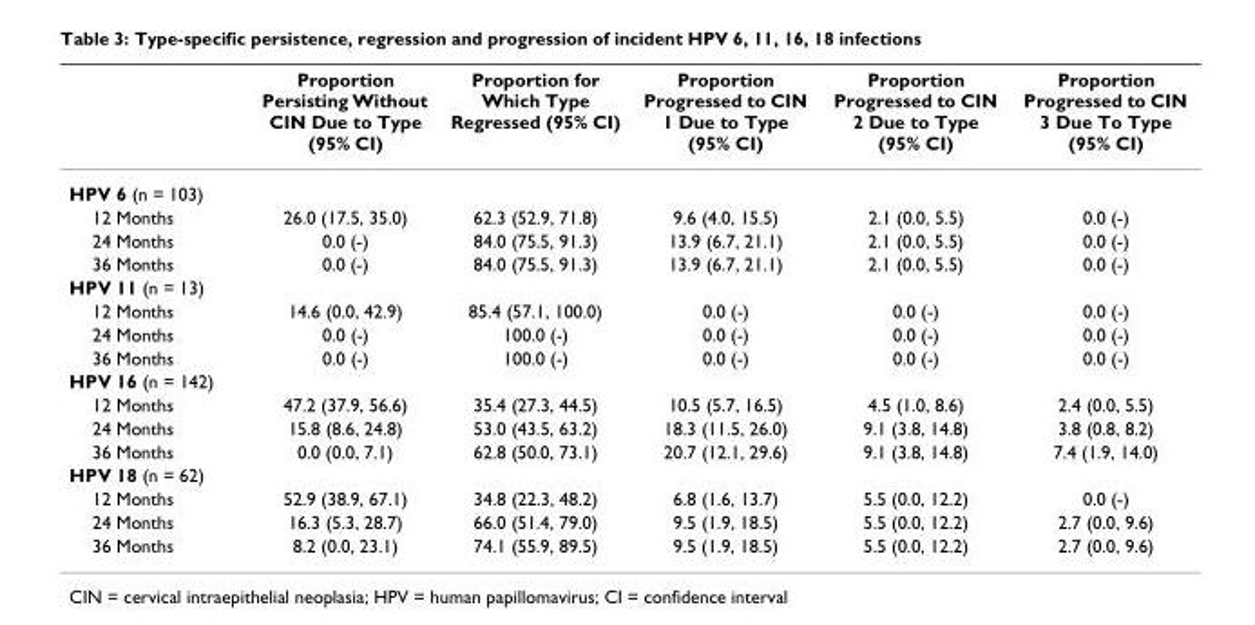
<table><thead><tr><td></td><td>Proportion Persisting Without CIN Due to Type (95% CI)</td><td>Proportion for Which Type Regressed (95% CI)</td><td>Proportion Progressed to CIN 1 Due to Type (95% CI)</td><td>Proportion Progressed to CIN 2 Due to Type (95% CI)</td><td>Proportion Progressed to CIN 3 Due To Type (95% CI)</td></tr></thead><tbody><tr><td colspan="6">HPV 6 (n = 103)</td></tr><tr><td>12 Months</td><td>26.0 (17.5, 35.0)</td><td>62.3 (52.9, 71.8)</td><td>9.6 (4.0, 15.5)</td><td>2.1 (0.0, 5.5)</td><td>0.0 (-)</td></tr><tr><td>24 Months</td><td>0.0 (-)</td><td>84.0 (75.5, 91.3)</td><td>13.9 (6.7, 21.1)</td><td>2.1 (0.0, 5.5)</td><td>0.0 (-)</td></tr><tr><td>36 Months</td><td>0.0 (-)</td><td>84.0 (75.5, 91.3)</td><td>13.9 (6.7, 21.1)</td><td>2.1 (0.0, 5.5)</td><td>0.0 (-)</td></tr><tr><td colspan="6">HPV 11 (n = 13)</td></tr><tr><td>12 Months</td><td>14.6 (0.0, 42.9)</td><td>85.4 (57.1, 100.0)</td><td>0.0 (-)</td><td>0.0 (-)</td><td>0.0 (-)</td></tr><tr><td>24 Months</td><td>0.0 (-)</td><td>100.0 (-)</td><td>0.0 (-)</td><td>0.0 (-)</td><td>0.0 (-)</td></tr><tr><td>36 Months</td><td>0.0 (-)</td><td>100.0 (-)</td><td>0.0 (-)</td><td>0.0 (-)</td><td>0.0 (-)</td></tr><tr><td colspan="6">HPV 16 (n = 142)</td></tr><tr><td>12 Months</td><td>47.2 (37.9, 56.6)</td><td>35.4 (27.3, 44.5)</td><td>10.5 (5.7, 16.5)</td><td>4.5 (1.0, 8.6)</td><td>2.4 (0.0, 5.5)</td></tr><tr><td>24 Months</td><td>15.8 (8.6, 24.8)</td><td>53.0 (43.5, 63.2)</td><td>18.3 (11.5, 26.0)</td><td>9.1 (3.8, 14.8)</td><td>3.8 (0.8, 8.2)</td></tr><tr><td>36 Months</td><td>0.0 (0.0, 7.1)</td><td>62.8 (50.0, 73.1)</td><td>20.7 (12.1, 29.6)</td><td>9.1 (3.8, 14.8)</td><td>7.4 (1.9, 14.0)</td></tr><tr><td colspan="6">HPV 18 (n = 62)</td></tr><tr><td>12 Months</td><td>52.9 (38.9, 67.1)</td><td>34.8 (22.3, 48.2)</td><td>6.8 (1.6, 13.7)</td><td>5.5 (0.0, 12.2)</td><td>0.0 (-)</td></tr><tr><td>24 Months</td><td>16.3 (5.3, 28.7)</td><td>66.0 (51.4, 79.0)</td><td>9.5 (1.9, 18.5)</td><td>5.5 (0.0, 12.2)</td><td>2.7 (0.0, 9.6)</td></tr><tr><td>36 Months</td><td>8.2 (0.0, 23.1)</td><td>74.1 (55.9, 89.5)</td><td>9.5 (1.9, 18.5)</td><td>5.5 (0.0, 12.2)</td><td>2.7 (0.0, 9.6)</td></tr></tbody></table>